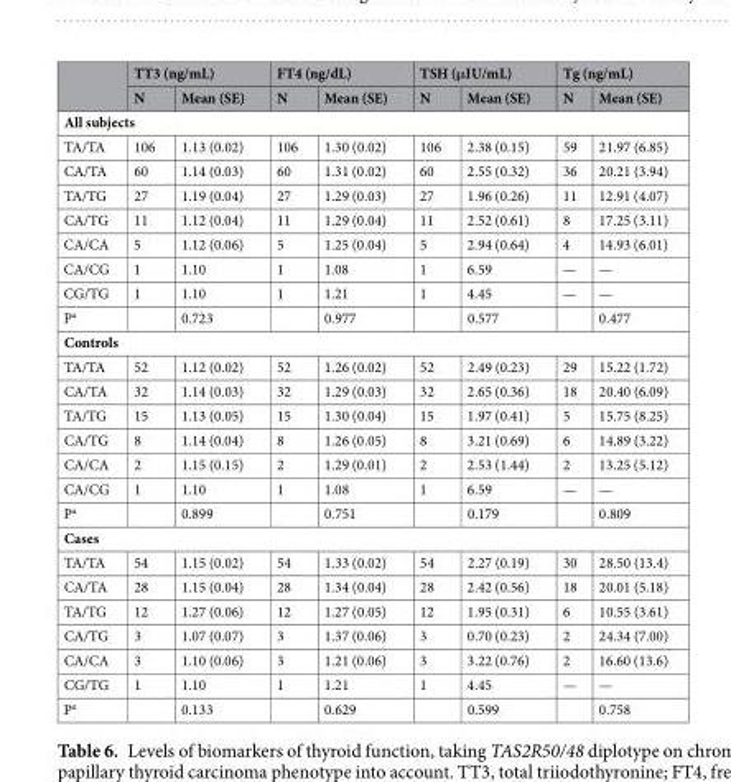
<table><thead><tr><td rowspan="2"></td><td colspan="2">TT3 (ng/mL)</td><td colspan="2">FT4 (ng/dL)</td><td colspan="2">TSH (μIU/mL)</td><td colspan="2">Tg (ng/mL)</td></tr><tr><td>N</td><td>Mean (SE)</td><td>N</td><td>Mean (SE)</td><td>N</td><td>Mean (SE)</td><td>N</td><td>Mean (SE)</td></tr></thead><tbody><tr><td colspan="9">All subjects</td></tr><tr><td>TA/TA</td><td>106</td><td>1.13 (0.02)</td><td>106</td><td>1.30 (0.02)</td><td>106</td><td>2.38 (0.15)</td><td>59</td><td>21.97 (6.85)</td></tr><tr><td>CA/TA</td><td>60</td><td>1.14 (0.03)</td><td>60</td><td>1.31 (0.02)</td><td>60</td><td>2.55 (0.32)</td><td>36</td><td>20.21 (3.94)</td></tr><tr><td>TA/TG</td><td>27</td><td>1.19 (0.04)</td><td>27</td><td>1.29 (0.03)</td><td>27</td><td>1.96 (0.26)</td><td>11</td><td>12.91 (4.07)</td></tr><tr><td>CA/TG</td><td>11</td><td>1.12 (0.04)</td><td>11</td><td>1.29 (0.04)</td><td>11</td><td>2.52 (0.61)</td><td>8</td><td>17.25 (3.11)</td></tr><tr><td>CA/CA</td><td>5</td><td>1.12 (0.06)</td><td>5</td><td>1.25 (0.04)</td><td>5</td><td>2.94 (0.64)</td><td>4</td><td>14.93 (6.01)</td></tr><tr><td>CA/CG</td><td>1</td><td>1.10</td><td>1</td><td>1.08</td><td>1</td><td>6.59</td><td>—</td><td>—</td></tr><tr><td>CG/TG</td><td>1</td><td>1.10</td><td>1</td><td>1.21</td><td>1</td><td>4.45</td><td>—</td><td>—</td></tr><tr><td>P<sup>a</sup></td><td></td><td>0.723</td><td></td><td>0.977</td><td></td><td>0.577</td><td></td><td>0.477</td></tr><tr><td colspan="9">Controls</td></tr><tr><td>TA/TA</td><td>52</td><td>1.12 (0.02)</td><td>52</td><td>1.26 (0.02)</td><td>52</td><td>2.49 (0.23)</td><td>29</td><td>15.22 (1.72)</td></tr><tr><td>CA/TA</td><td>32</td><td>1.14 (0.03)</td><td>32</td><td>1.29 (0.03)</td><td>32</td><td>2.65 (0.36)</td><td>18</td><td>20.40 (6.09)</td></tr><tr><td>TA/TG</td><td>15</td><td>1.13 (0.05)</td><td>15</td><td>1.30 (0.04)</td><td>15</td><td>1.97 (0.41)</td><td>5</td><td>15.75 (8.25)</td></tr><tr><td>CA/TG</td><td>8</td><td>1.14 (0.04)</td><td>8</td><td>1.26 (0.05)</td><td>8</td><td>3.21 (0.69)</td><td>6</td><td>14.89 (3.22)</td></tr><tr><td>CA/CA</td><td>2</td><td>1.15 (0.15)</td><td>2</td><td>1.29 (0.01)</td><td>2</td><td>2.53 (1.44)</td><td>2</td><td>13.25 (5.12)</td></tr><tr><td>CA/CG</td><td>1</td><td>1.10</td><td>1</td><td>1.08</td><td>1</td><td>6.59</td><td>—</td><td>—</td></tr><tr><td>P<sup>a</sup></td><td></td><td>0.899</td><td></td><td>0.751</td><td></td><td>0.179</td><td></td><td>0.809</td></tr><tr><td colspan="9">Cases</td></tr><tr><td>TA/TA</td><td>54</td><td>1.15 (0.02)</td><td>54</td><td>1.33 (0.02)</td><td>54</td><td>2.27 (0.19)</td><td>30</td><td>28.50 (13.4)</td></tr><tr><td>CA/TA</td><td>28</td><td>1.15 (0.04)</td><td>28</td><td>1.34 (0.04)</td><td>28</td><td>2.42 (0.56)</td><td>18</td><td>20.01 (5.18)</td></tr><tr><td>TA/TG</td><td>12</td><td>1.27 (0.06)</td><td>12</td><td>1.27 (0.05)</td><td>12</td><td>1.95 (0.31)</td><td>6</td><td>10.55 (3.61)</td></tr><tr><td>CA/TG</td><td>3</td><td>1.07 (0.07)</td><td>3</td><td>1.37 (0.06)</td><td>3</td><td>0.70 (0.23)</td><td>2</td><td>24.34 (7.00)</td></tr><tr><td>CA/CA</td><td>3</td><td>1.10 (0.06)</td><td>3</td><td>1.21 (0.06)</td><td>3</td><td>3.22 (0.76)</td><td>2</td><td>16.60 (13.6)</td></tr><tr><td>CG/TG</td><td>1</td><td>1.10</td><td>1</td><td>1.21</td><td>1</td><td>4.45</td><td>—</td><td>—</td></tr><tr><td>P<sup>a</sup></td><td></td><td>0.133</td><td></td><td>0.629</td><td></td><td>0.599</td><td></td><td>0.758</td></tr></tbody></table>